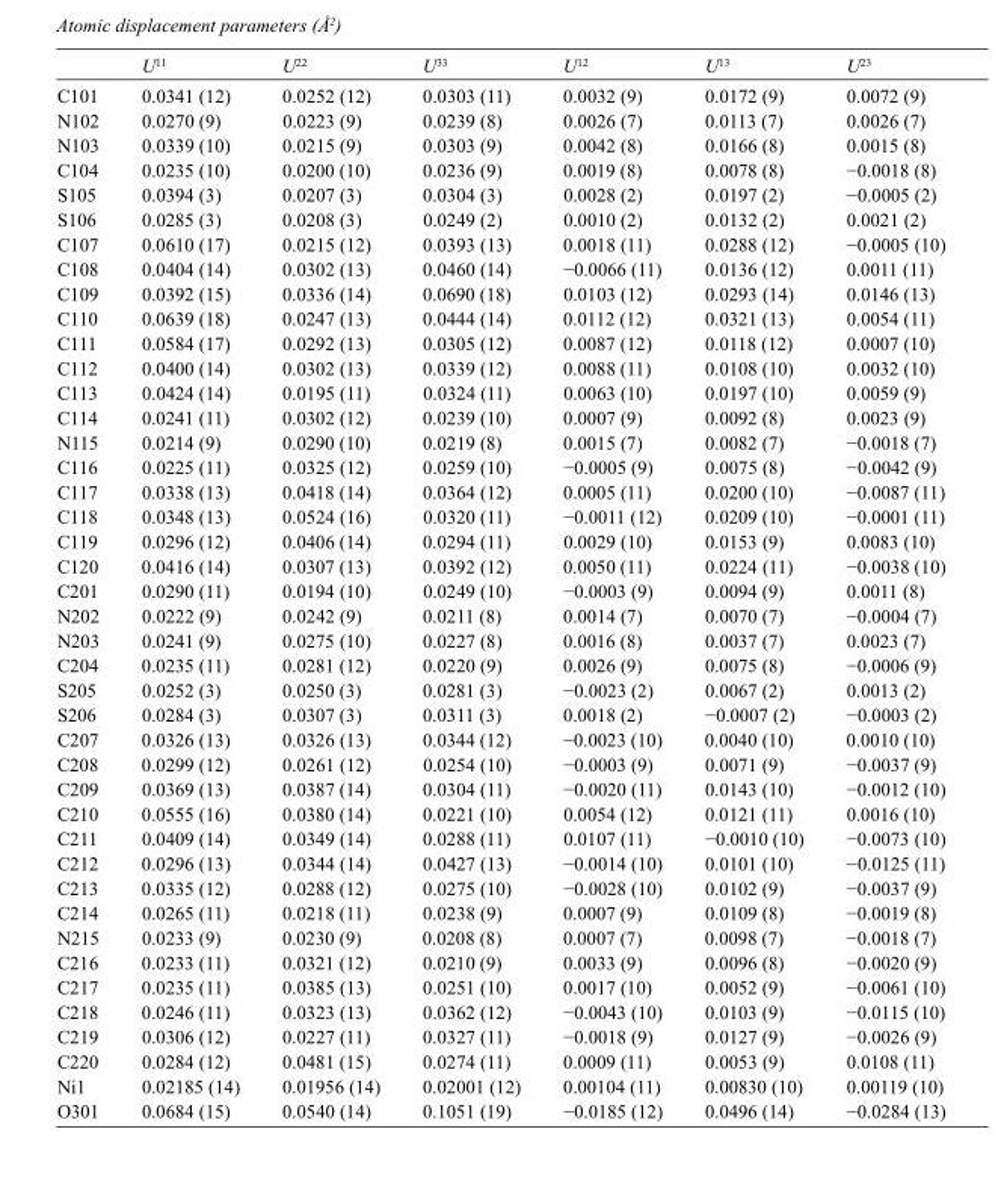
<table><thead><tr><td></td><td>U<sup>11</sup></td><td>U<sup>22</sup></td><td>U<sup>33</sup></td><td>U<sup>12</sup></td><td>U<sup>13</sup></td><td>U<sup>23</sup></td></tr></thead><tbody><tr><td>C101</td><td>0.0341 (12)</td><td>0.0252 (12)</td><td>0.0303 (11)</td><td>0.0032 (9)</td><td>0.0172 (9)</td><td>0.0072 (9)</td></tr><tr><td>N102</td><td>0.0270 (9)</td><td>0.0223 (9)</td><td>0.0239 (8)</td><td>0.0026 (7)</td><td>0.0113 (7)</td><td>0.0026 (7)</td></tr><tr><td>N103</td><td>0.0339 (10)</td><td>0.0215 (9)</td><td>0.0303 (9)</td><td>0.0042 (8)</td><td>0.0166 (8)</td><td>0.0015 (8)</td></tr><tr><td>C104</td><td>0.0235 (10)</td><td>0.0200 (10)</td><td>0.0236 (9)</td><td>0.0019 (8)</td><td>0.0078 (8)</td><td>−0.0018 (8)</td></tr><tr><td>S105</td><td>0.0394 (3)</td><td>0.0207 (3)</td><td>0.0304 (3)</td><td>0.0028 (2)</td><td>0.0197 (2)</td><td>−0.0005 (2)</td></tr><tr><td>S106</td><td>0.0285 (3)</td><td>0.0208 (3)</td><td>0.0249 (2)</td><td>0.0010 (2)</td><td>0.0132 (2)</td><td>0.0021 (2)</td></tr><tr><td>C107</td><td>0.0610 (17)</td><td>0.0215 (12)</td><td>0.0393 (13)</td><td>0.0018 (11)</td><td>0.0288 (12)</td><td>−0.0005 (10)</td></tr><tr><td>C108</td><td>0.0404 (14)</td><td>0.0302 (13)</td><td>0.0460 (14)</td><td>−0.0066 (11)</td><td>0.0136 (12)</td><td>0.0011 (11)</td></tr><tr><td>C109</td><td>0.0392 (15)</td><td>0.0336 (14)</td><td>0.0690 (18)</td><td>0.0103 (12)</td><td>0.0293 (14)</td><td>0.0146 (13)</td></tr><tr><td>C110</td><td>0.0639 (18)</td><td>0.0247 (13)</td><td>0.0444 (14)</td><td>0.0112 (12)</td><td>0.0321 (13)</td><td>0.0054 (11)</td></tr><tr><td>C111</td><td>0.0584 (17)</td><td>0.0292 (13)</td><td>0.0305 (12)</td><td>0.0087 (12)</td><td>0.0118 (12)</td><td>0.0007 (10)</td></tr><tr><td>C112</td><td>0.0400 (14)</td><td>0.0302 (13)</td><td>0.0339 (12)</td><td>0.0088 (11)</td><td>0.0108 (10)</td><td>0.0032 (10)</td></tr><tr><td>C113</td><td>0.0424 (14)</td><td>0.0195 (11)</td><td>0.0324 (11)</td><td>0.0063 (10)</td><td>0.0197 (10)</td><td>0.0059 (9)</td></tr><tr><td>C114</td><td>0.0241 (11)</td><td>0.0302 (12)</td><td>0.0239 (10)</td><td>0.0007 (9)</td><td>0.0092 (8)</td><td>0.0023 (9)</td></tr><tr><td>N115</td><td>0.0214 (9)</td><td>0.0290 (10)</td><td>0.0219 (8)</td><td>0.0015 (7)</td><td>0.0082 (7)</td><td>−0.0018 (7)</td></tr><tr><td>C116</td><td>0.0225 (11)</td><td>0.0325 (12)</td><td>0.0259 (10)</td><td>−0.0005 (9)</td><td>0.0075 (8)</td><td>−0.0042 (9)</td></tr><tr><td>C117</td><td>0.0338 (13)</td><td>0.0418 (14)</td><td>0.0364 (12)</td><td>0.0005 (11)</td><td>0.0200 (10)</td><td>−0.0087 (11)</td></tr><tr><td>C118</td><td>0.0348 (13)</td><td>0.0524 (16)</td><td>0.0320 (11)</td><td>−0.0011 (12)</td><td>0.0209 (10)</td><td>−0.0001 (11)</td></tr><tr><td>C119</td><td>0.0296 (12)</td><td>0.0406 (14)</td><td>0.0294 (11)</td><td>0.0029 (10)</td><td>0.0153 (9)</td><td>0.0083 (10)</td></tr><tr><td>C120</td><td>0.0416 (14)</td><td>0.0307 (13)</td><td>0.0392 (12)</td><td>0.0050 (11)</td><td>0.0224 (11)</td><td>−0.0038 (10)</td></tr><tr><td>C201</td><td>0.0290 (11)</td><td>0.0194 (10)</td><td>0.0249 (10)</td><td>−0.0003 (9)</td><td>0.0094 (9)</td><td>0.0011 (8)</td></tr><tr><td>N202</td><td>0.0222 (9)</td><td>0.0242 (9)</td><td>0.0211 (8)</td><td>0.0014 (7)</td><td>0.0070 (7)</td><td>−0.0004 (7)</td></tr><tr><td>N203</td><td>0.0241 (9)</td><td>0.0275 (10)</td><td>0.0227 (8)</td><td>0.0016 (8)</td><td>0.0037 (7)</td><td>0.0023 (7)</td></tr><tr><td>C204</td><td>0.0235 (11)</td><td>0.0281 (12)</td><td>0.0220 (9)</td><td>0.0026 (9)</td><td>0.0075 (8)</td><td>−0.0006 (9)</td></tr><tr><td>S205</td><td>0.0252 (3)</td><td>0.0250 (3)</td><td>0.0281 (3)</td><td>−0.0023 (2)</td><td>0.0067 (2)</td><td>0.0013 (2)</td></tr><tr><td>S206</td><td>0.0284 (3)</td><td>0.0307 (3)</td><td>0.0311 (3)</td><td>0.0018 (2)</td><td>−0.0007 (2)</td><td>−0.0003 (2)</td></tr><tr><td>C207</td><td>0.0326 (13)</td><td>0.0326 (13)</td><td>0.0344 (12)</td><td>−0.0023 (10)</td><td>0.0040 (10)</td><td>0.0010 (10)</td></tr><tr><td>C208</td><td>0.0299 (12)</td><td>0.0261 (12)</td><td>0.0254 (10)</td><td>−0.0003 (9)</td><td>0.0071 (9)</td><td>−0.0037 (9)</td></tr><tr><td>C209</td><td>0.0369 (13)</td><td>0.0387 (14)</td><td>0.0304 (11)</td><td>−0.0020 (11)</td><td>0.0143 (10)</td><td>−0.0012 (10)</td></tr><tr><td>C210</td><td>0.0555 (16)</td><td>0.0380 (14)</td><td>0.0221 (10)</td><td>0.0054 (12)</td><td>0.0121 (11)</td><td>0.0016 (10)</td></tr><tr><td>C211</td><td>0.0409 (14)</td><td>0.0349 (14)</td><td>0.0288 (11)</td><td>0.0107 (11)</td><td>−0.0010 (10)</td><td>−0.0073 (10)</td></tr><tr><td>C212</td><td>0.0296 (13)</td><td>0.0344 (14)</td><td>0.0427 (13)</td><td>−0.0014 (10)</td><td>0.0101 (10)</td><td>−0.0125 (11)</td></tr><tr><td>C213</td><td>0.0335 (12)</td><td>0.0288 (12)</td><td>0.0275 (10)</td><td>−0.0028 (10)</td><td>0.0102 (9)</td><td>−0.0037 (9)</td></tr><tr><td>C214</td><td>0.0265 (11)</td><td>0.0218 (11)</td><td>0.0238 (9)</td><td>0.0007 (9)</td><td>0.0109 (8)</td><td>−0.0019 (8)</td></tr><tr><td>N215</td><td>0.0233 (9)</td><td>0.0230 (9)</td><td>0.0208 (8)</td><td>0.0007 (7)</td><td>0.0098 (7)</td><td>−0.0018 (7)</td></tr><tr><td>C216</td><td>0.0233 (11)</td><td>0.0321 (12)</td><td>0.0210 (9)</td><td>0.0033 (9)</td><td>0.0096 (8)</td><td>−0.0020 (9)</td></tr><tr><td>C217</td><td>0.0235 (11)</td><td>0.0385 (13)</td><td>0.0251 (10)</td><td>0.0017 (10)</td><td>0.0052 (9)</td><td>−0.0061 (10)</td></tr><tr><td>C218</td><td>0.0246 (11)</td><td>0.0323 (13)</td><td>0.0362 (12)</td><td>−0.0043 (10)</td><td>0.0103 (9)</td><td>−0.0115 (10)</td></tr><tr><td>C219</td><td>0.0306 (12)</td><td>0.0227 (11)</td><td>0.0327 (11)</td><td>−0.0018 (9)</td><td>0.0127 (9)</td><td>−0.0026 (9)</td></tr><tr><td>C220</td><td>0.0284 (12)</td><td>0.0481 (15)</td><td>0.0274 (11)</td><td>0.0009 (11)</td><td>0.0053 (9)</td><td>0.0108 (11)</td></tr><tr><td>Ni1</td><td>0.02185 (14)</td><td>0.01956 (14)</td><td>0.02001 (12)</td><td>0.00104 (11)</td><td>0.00830 (10)</td><td>0.00119 (10)</td></tr><tr><td>O301</td><td>0.0684 (15)</td><td>0.0540 (14)</td><td>0.1051 (19)</td><td>−0.0185 (12)</td><td>0.0496 (14)</td><td>−0.0284 (13)</td></tr></tbody></table>